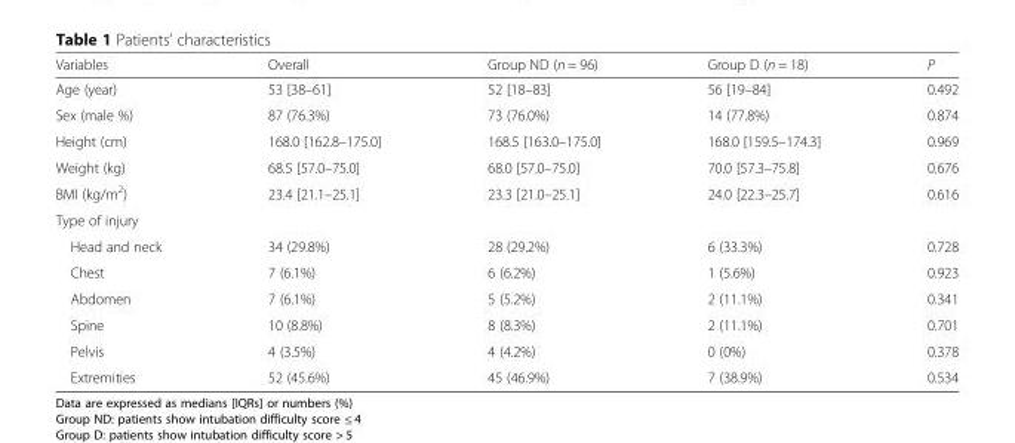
<table><thead><tr><td>Variables</td><td>Overall</td><td>Group ND (n = 96)</td><td>Group D (n = 18)</td><td>P</td></tr></thead><tbody><tr><td>Age (year)</td><td>53 [38–61]</td><td>52 [18–83]</td><td>56 [19–84]</td><td>0.492</td></tr><tr><td>Sex (male %)</td><td>87 (76.3%)</td><td>73 (76.0%)</td><td>14 (77.8%)</td><td>0.874</td></tr><tr><td>Height (cm)</td><td>168.0 [162.8–175.0]</td><td>168.5 [163.0–175.0]</td><td>168.0 [159.5–174.3]</td><td>0.969</td></tr><tr><td>Weight (kg)</td><td>68.5 [57.0–75.0]</td><td>68.0 [57.0–75.0]</td><td>70.0 [57.3–75.8]</td><td>0.676</td></tr><tr><td>BMI (kg/m<sup>2</sup>)</td><td>23.4 [21.1–25.1]</td><td>23.3 [21.0–25.1]</td><td>24.0 [22.3–25.7]</td><td>0.616</td></tr><tr><td colspan="5">Type of injury</td></tr><tr><td>Head and neck</td><td>34 (29.8%)</td><td>28 (29.2%)</td><td>6 (33.3%)</td><td>0.728</td></tr><tr><td>Chest</td><td>7 (6.1%)</td><td>6 (6.2%)</td><td>1 (5.6%)</td><td>0.923</td></tr><tr><td>Abdomen</td><td>7 (6.1%)</td><td>5 (5.2%)</td><td>2 (11.1%)</td><td>0.341</td></tr><tr><td>Spine</td><td>10 (8.8%)</td><td>8 (8.3%)</td><td>2 (11.1%)</td><td>0.701</td></tr><tr><td>Pelvis</td><td>4 (3.5%)</td><td>4 (4.2%)</td><td>0 (0%)</td><td>0.378</td></tr><tr><td>Extremities</td><td>52 (45.6%)</td><td>45 (46.9%)</td><td>7 (38.9%)</td><td>0.534</td></tr></tbody></table>